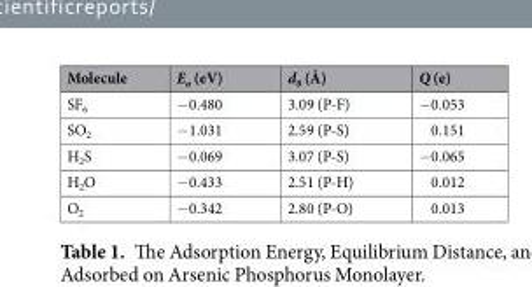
<table><thead><tr><td>Molecule</td><td>E<sub>a</sub> (eV)</td><td>d<sub>0</sub> (Å)</td><td>Q (e)</td></tr></thead><tbody><tr><td>SF<sub>6</sub></td><td>−0.480</td><td>3.09 (P-F)</td><td>−0.053</td></tr><tr><td>SO<sub>2</sub></td><td>−1.031</td><td>2.59 (P-S)</td><td>0.151</td></tr><tr><td>H<sub>2</sub>S</td><td>−0.069</td><td>3.07 (P-S)</td><td>−0.065</td></tr><tr><td>H<sub>2</sub>O</td><td>−0.433</td><td>2.51 (P-H)</td><td>0.012</td></tr><tr><td>O<sub>2</sub></td><td>−0.342</td><td>2.80 (P-O)</td><td>0.013</td></tr></tbody></table>